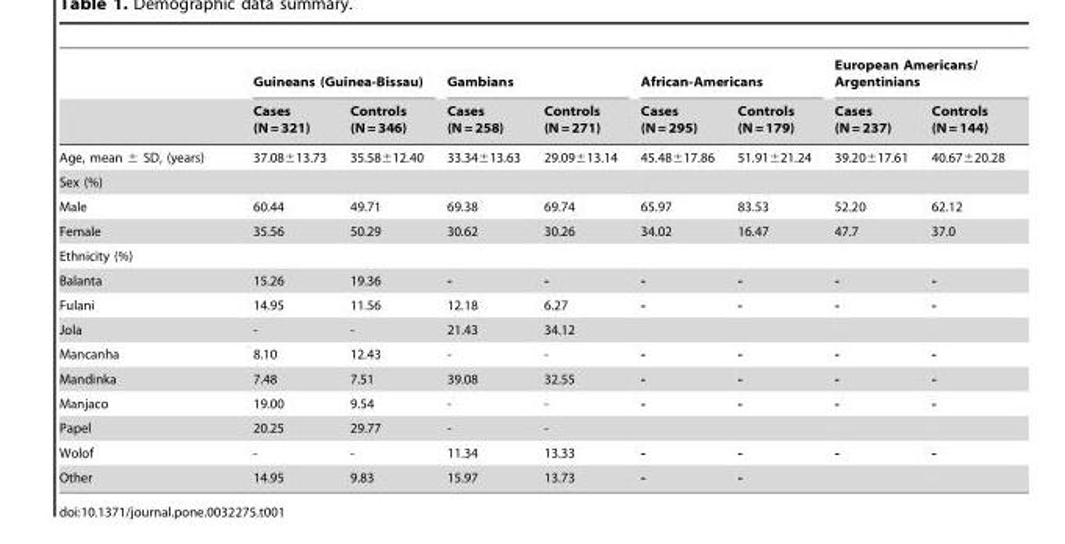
<table><thead><tr><td rowspan="2"></td><td colspan="2">Guineans (Guinea-Bissau)</td><td colspan="2">Gambians</td><td colspan="2">African-Americans</td><td colspan="2">European Americans/ Argentinians</td></tr><tr><td>Cases (N = 321)</td><td>Controls (N = 346)</td><td>Cases (N = 258)</td><td>Controls (N = 271)</td><td>Cases (N = 295)</td><td>Controls (N = 179)</td><td>Cases (N = 237)</td><td>Controls (N = 144)</td></tr></thead><tbody><tr><td>Age, mean ± SD, (years)</td><td>37.08±13.73</td><td>35.58±12.40</td><td>33.34±13.63</td><td>29.09±13.14</td><td>45.48±17.86</td><td>51.91±21.24</td><td>39.20±17.61</td><td>40.67±20.28</td></tr><tr><td colspan="9">Sex (%)</td></tr><tr><td>Male</td><td>60.44</td><td>49.71</td><td>69.38</td><td>69.74</td><td>65.97</td><td>83.53</td><td>52.20</td><td>62.12</td></tr><tr><td>Female</td><td>35.56</td><td>50.29</td><td>30.62</td><td>30.26</td><td>34.02</td><td>16.47</td><td>47.7</td><td>37.0</td></tr><tr><td colspan="9">Ethnicity (%)</td></tr><tr><td>Balanta</td><td>15.26</td><td>19.36</td><td>-</td><td>-</td><td>-</td><td>-</td><td>-</td><td>-</td></tr><tr><td>Fulani</td><td>14.95</td><td>11.56</td><td>12.18</td><td>6.27</td><td>-</td><td>-</td><td>-</td><td>-</td></tr><tr><td>Jola</td><td>-</td><td>-</td><td>21.43</td><td>34.12</td><td></td><td></td><td></td><td></td></tr><tr><td>Mancanha</td><td>8.10</td><td>12.43</td><td>-</td><td>-</td><td>-</td><td>-</td><td>-</td><td>-</td></tr><tr><td>Mandinka</td><td>7.48</td><td>7.51</td><td>39.08</td><td>32.55</td><td>-</td><td>-</td><td>-</td><td>-</td></tr><tr><td>Manjaco</td><td>19.00</td><td>9.54</td><td>-</td><td>-</td><td>-</td><td>-</td><td>-</td><td>-</td></tr><tr><td>Papel</td><td>20.25</td><td>29.77</td><td>-</td><td>-</td><td></td><td></td><td></td><td></td></tr><tr><td>Wolof</td><td>-</td><td>-</td><td>11.34</td><td>13.33</td><td>-</td><td>-</td><td>-</td><td>-</td></tr><tr><td>Other</td><td>14.95</td><td>9.83</td><td>15.97</td><td>13.73</td><td>-</td><td>-</td><td></td><td></td></tr></tbody></table>